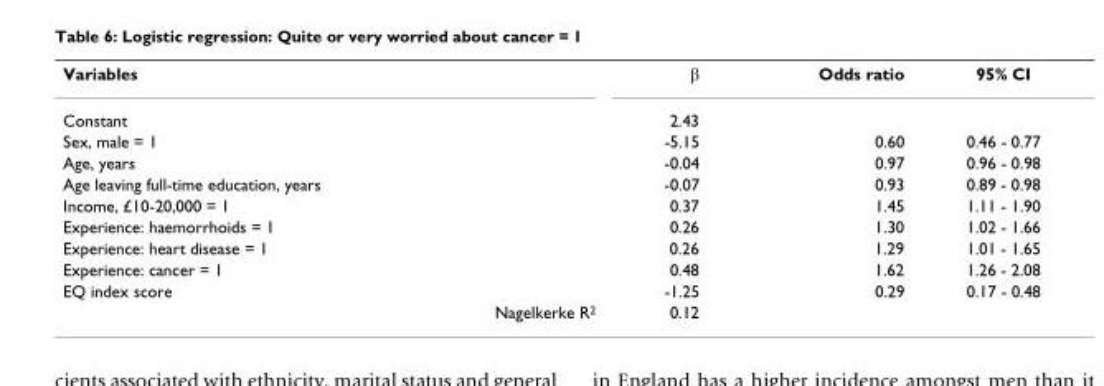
<table><tbody><tr><td>Variables</td><td>β</td><td>Odds ratio</td><td>95% CI</td></tr><tr><td>Constant</td><td>2.43</td><td></td><td></td></tr><tr><td>Sex, male = 1</td><td>-5.15</td><td>0.60</td><td>0.46 - 0.77</td></tr><tr><td>Age, years</td><td>-0.04</td><td>0.97</td><td>0.96 - 0.98</td></tr><tr><td>Age leaving full-time education, years</td><td>-0.07</td><td>0.93</td><td>0.89 - 0.98</td></tr><tr><td>Income, £10-20,000 = 1</td><td>0.37</td><td>1.45</td><td>1.11 - 1.90</td></tr><tr><td>Experience: haemorrhoids = 1</td><td>0.26</td><td>1.30</td><td>1.02 - 1.66</td></tr><tr><td>Experience: heart disease = 1</td><td>0.26</td><td>1.29</td><td>1.01 - 1.65</td></tr><tr><td>Experience: cancer = 1</td><td>0.48</td><td>1.62</td><td>1.26 - 2.08</td></tr><tr><td>EQ index score</td><td>-1.25</td><td>0.29</td><td>0.17 - 0.48</td></tr><tr><td>Nagelkerke R<sup>2</sup></td><td>0.12</td><td></td><td></td></tr></tbody></table>